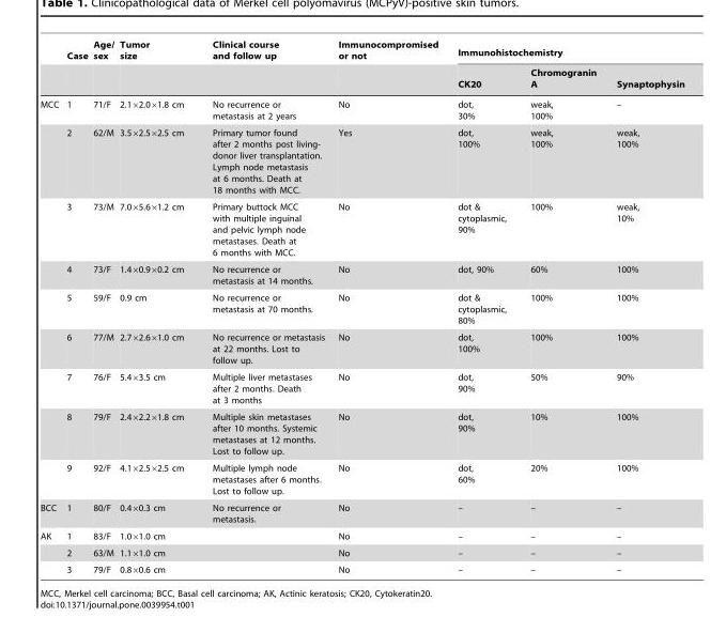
<table><thead><tr><td rowspan="2"></td><td rowspan="2">Case</td><td rowspan="2">Age/ sex</td><td rowspan="2">Tumor size</td><td rowspan="2">Clinical course and follow up</td><td rowspan="2">Immunocompromised or not</td><td colspan="3">Immunohistochemistry</td></tr><tr><td>CK20</td><td>Chromogranin A</td><td>Synaptophysin</td></tr></thead><tbody><tr><td rowspan="9">MCC</td><td>1</td><td>71/F</td><td>2.1×2.0×1.8 cm</td><td>No recurrence or metastasis at 2 years</td><td>No</td><td>dot, 30%</td><td>weak, 100%</td><td>–</td></tr><tr><td>2</td><td>62/M</td><td>3.5×2.5×2.5 cm</td><td>Primary tumor found after 2 months post living- donor liver transplantation. Lymph node metastasis at 6 months. Death at 18 months with MCC.</td><td>Yes</td><td>dot, 100%</td><td>weak, 100%</td><td>weak, 100%</td></tr><tr><td>3</td><td>73/M</td><td>7.0×5.6×1.2 cm</td><td>Primary buttock MCC with multiple inguinal and pelvic lymph node metastases. Death at 6 months with MCC.</td><td>No</td><td>dot &amp; cytoplasmic, 90%</td><td>100%</td><td>weak, 10%</td></tr><tr><td>4</td><td>73/F</td><td>1.4×0.9×0.2 cm</td><td>No recurrence or metastasis at 14 months.</td><td>No</td><td>dot, 90%</td><td>60%</td><td>100%</td></tr><tr><td>5</td><td>59/F</td><td>0.9 cm</td><td>No recurrence or metastasis at 70 months.</td><td>No</td><td>dot &amp; cytoplasmic, 80%</td><td>100%</td><td>100%</td></tr><tr><td>6</td><td>77/M</td><td>2.7×2.6×1.0 cm</td><td>No recurrence or metastasis at 22 months. Lost to follow up.</td><td>No</td><td>dot, 100%</td><td>100%</td><td>100%</td></tr><tr><td>7</td><td>76/F</td><td>5.4×3.5 cm</td><td>Multiple liver metastases after 2 months. Death at 3 months</td><td>No</td><td>dot, 90%</td><td>50%</td><td>90%</td></tr><tr><td>8</td><td>79/F</td><td>2.4×2.2×1.8 cm</td><td>Multiple skin metastases after 10 months. Systemic metastases at 12 months. Lost to follow up.</td><td>No</td><td>dot, 90%</td><td>10%</td><td>100%</td></tr><tr><td>9</td><td>92/F</td><td>4.1×2.5×2.5 cm</td><td>Multiple lymph node metastases after 6 months. Lost to follow up.</td><td>No</td><td>dot, 60%</td><td>20%</td><td>100%</td></tr><tr><td>BCC</td><td>1</td><td>80/F</td><td>0.4×0.3 cm</td><td>No recurrence or metastasis.</td><td>No</td><td>–</td><td>–</td><td>–</td></tr><tr><td rowspan="3">AK</td><td>1</td><td>83/F</td><td>1.0×1.0 cm</td><td></td><td>No</td><td>–</td><td>–</td><td>–</td></tr><tr><td>2</td><td>63/M</td><td>1.1×1.0 cm</td><td></td><td>No</td><td>–</td><td>–</td><td>–</td></tr><tr><td>3</td><td>79/F</td><td>0.8×0.6 cm</td><td></td><td>No</td><td>–</td><td>–</td><td>–</td></tr></tbody></table>